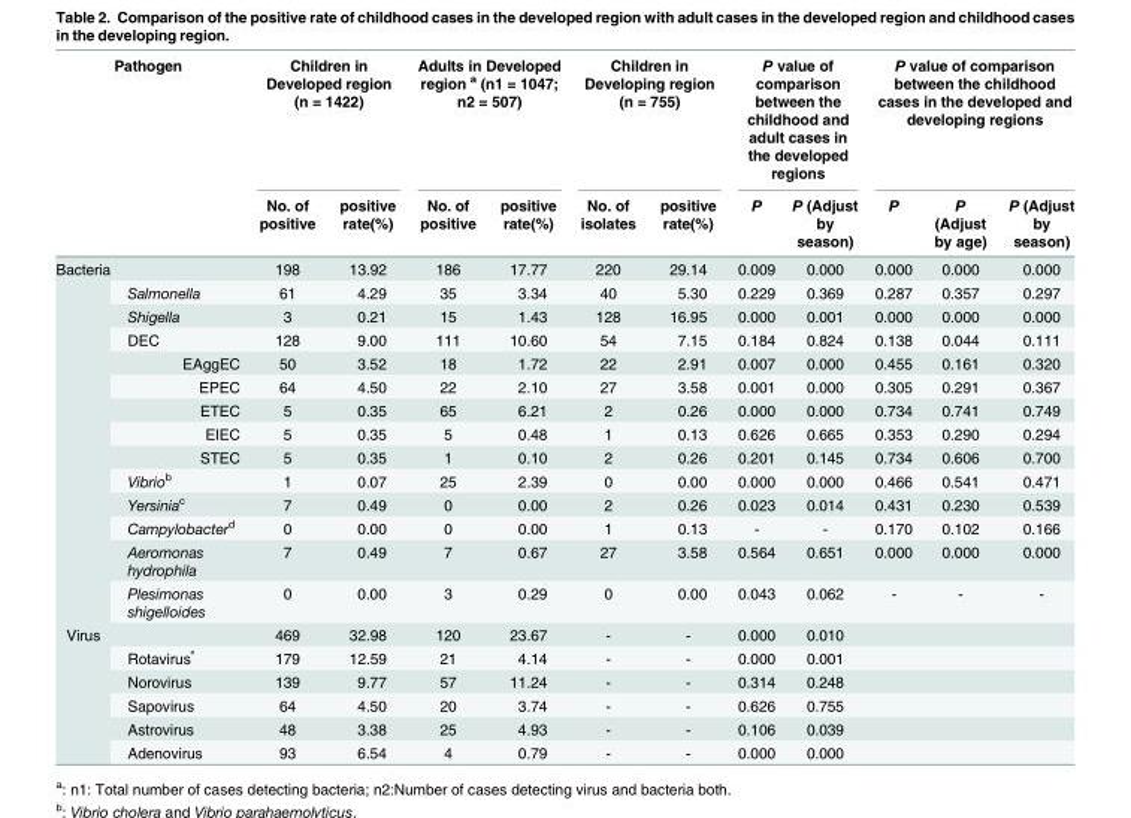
<table><thead><tr><td colspan="2">Pathogen</td><td colspan="2">Children in Developed region (n = 1422)</td><td colspan="2">Adults in Developed region <sup>a</sup> (n1 = 1047; n2 = 507)</td><td colspan="2">Children in Developing region (n = 755)</td><td colspan="2">P value of comparison between the childhood and adult cases in the developed regions</td><td colspan="3">P value of comparison between the childhood cases in the developed and developing regions</td></tr><tr><td></td><td></td><td>No. of positive</td><td>positive rate(%)</td><td>No. of positive</td><td>positive rate(%)</td><td>No. of isolates</td><td>positive rate(%)</td><td>P</td><td>P (Adjust by season)</td><td>P</td><td>P (Adjust by age)</td><td>P (Adjust by season)</td></tr></thead><tbody><tr><td rowspan="14">Bacteria</td><td></td><td>198</td><td>13.92</td><td>186</td><td>17.77</td><td>220</td><td>29.14</td><td>0.009</td><td>0.000</td><td>0.000</td><td>0.000</td><td>0.000</td></tr><tr><td>Salmonella</td><td>61</td><td>4.29</td><td>35</td><td>3.34</td><td>40</td><td>5.30</td><td>0.229</td><td>0.369</td><td>0.287</td><td>0.357</td><td>0.297</td></tr><tr><td>Shigella</td><td>3</td><td>0.21</td><td>15</td><td>1.43</td><td>128</td><td>16.95</td><td>0.000</td><td>0.001</td><td>0.000</td><td>0.000</td><td>0.000</td></tr><tr><td>DEC</td><td>128</td><td>9.00</td><td>111</td><td>10.60</td><td>54</td><td>7.15</td><td>0.184</td><td>0.824</td><td>0.138</td><td>0.044</td><td>0.111</td></tr><tr><td>EAggEC</td><td>50</td><td>3.52</td><td>18</td><td>1.72</td><td>22</td><td>2.91</td><td>0.007</td><td>0.000</td><td>0.455</td><td>0.161</td><td>0.320</td></tr><tr><td>EPEC</td><td>64</td><td>4.50</td><td>22</td><td>2.10</td><td>27</td><td>3.58</td><td>0.001</td><td>0.000</td><td>0.305</td><td>0.291</td><td>0.367</td></tr><tr><td>ETEC</td><td>5</td><td>0.35</td><td>65</td><td>6.21</td><td>2</td><td>0.26</td><td>0.000</td><td>0.000</td><td>0.734</td><td>0.741</td><td>0.749</td></tr><tr><td>EIEC</td><td>5</td><td>0.35</td><td>5</td><td>0.48</td><td>1</td><td>0.13</td><td>0.626</td><td>0.665</td><td>0.353</td><td>0.290</td><td>0.294</td></tr><tr><td>STEC</td><td>5</td><td>0.35</td><td>1</td><td>0.10</td><td>2</td><td>0.26</td><td>0.201</td><td>0.145</td><td>0.734</td><td>0.606</td><td>0.700</td></tr><tr><td>Vibrio<sup>b</sup></td><td>1</td><td>0.07</td><td>25</td><td>2.39</td><td>0</td><td>0.00</td><td>0.000</td><td>0.000</td><td>0.466</td><td>0.541</td><td>0.471</td></tr><tr><td>Yersinia<sup>c</sup></td><td>7</td><td>0.49</td><td>0</td><td>0.00</td><td>2</td><td>0.26</td><td>0.023</td><td>0.014</td><td>0.431</td><td>0.230</td><td>0.539</td></tr><tr><td>Campylobacter<sup>d</sup></td><td>0</td><td>0.00</td><td>0</td><td>0.00</td><td>1</td><td>0.13</td><td>-</td><td>-</td><td>0.170</td><td>0.102</td><td>0.166</td></tr><tr><td>Aeromonas hydrophila</td><td>7</td><td>0.49</td><td>7</td><td>0.67</td><td>27</td><td>3.58</td><td>0.564</td><td>0.651</td><td>0.000</td><td>0.000</td><td>0.000</td></tr><tr><td>Plesimonas shigelloides</td><td>0</td><td>0.00</td><td>3</td><td>0.29</td><td>0</td><td>0.00</td><td>0.043</td><td>0.062</td><td>-</td><td>-</td><td>-</td></tr><tr><td rowspan="6">Virus</td><td></td><td>469</td><td>32.98</td><td>120</td><td>23.67</td><td>-</td><td>-</td><td>0.000</td><td>0.010</td><td></td><td></td><td></td></tr><tr><td>Rotavirus e</td><td>179</td><td>12.59</td><td>21</td><td>4.14</td><td>-</td><td>-</td><td>0.000</td><td>0.001</td><td></td><td></td><td></td></tr><tr><td>Norovirus</td><td>139</td><td>9.77</td><td>57</td><td>11.24</td><td>-</td><td>-</td><td>0.314</td><td>0.248</td><td></td><td></td><td></td></tr><tr><td>Sapovirus</td><td>64</td><td>4.50</td><td>20</td><td>3.74</td><td>-</td><td>-</td><td>0.626</td><td>0.755</td><td></td><td></td><td></td></tr><tr><td>Astrovirus</td><td>48</td><td>3.38</td><td>25</td><td>4.93</td><td>-</td><td>-</td><td>0.106</td><td>0.039</td><td></td><td></td><td></td></tr><tr><td>Adenovirus</td><td>93</td><td>6.54</td><td>4</td><td>0.79</td><td>-</td><td>-</td><td>0.000</td><td>0.000</td><td></td><td></td><td></td></tr></tbody></table>